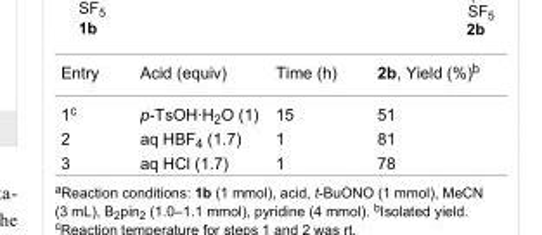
<table><tbody><tr><td>Entry</td><td>Acid (equiv)</td><td>Time (h)</td><td>2b, Yield (%)<sup>b</sup></td></tr><tr><td>1<sup>c</sup></td><td>p-TsOH·H<sub>2</sub>O (1)</td><td>15</td><td>51</td></tr><tr><td>2</td><td>aq HBF<sub>4</sub> (1.7)</td><td>1</td><td>81</td></tr><tr><td>3</td><td>aq HCl (1.7)</td><td>1</td><td>78</td></tr></tbody></table>